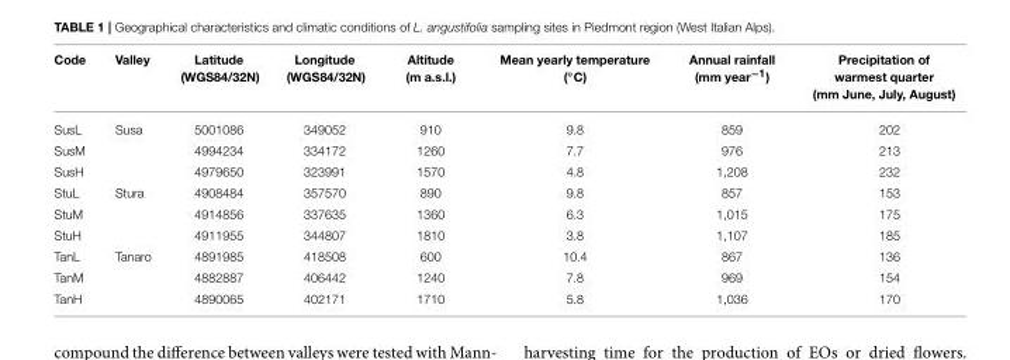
<table><thead><tr><td>Code</td><td>Valley</td><td>Latitude (WGS84/32N)</td><td>Longitude (WGS84/32N)</td><td>Altitude (m a.s.l.)</td><td>Mean yearly temperature (◦C)</td><td>Annual rainfall (mm year<sup>−1</sup>)</td><td>Precipitation of warmest quarter (mm June, July, August)</td></tr></thead><tbody><tr><td>SusL</td><td>Susa</td><td>5001086</td><td>349052</td><td>910</td><td>9.8</td><td>859</td><td>202</td></tr><tr><td>SusM</td><td></td><td>4994234</td><td>334172</td><td>1260</td><td>7.7</td><td>976</td><td>213</td></tr><tr><td>SusH</td><td></td><td>4979650</td><td>323991</td><td>1570</td><td>4.8</td><td>1,208</td><td>232</td></tr><tr><td>StuL</td><td>Stura</td><td>4908484</td><td>357570</td><td>890</td><td>9.8</td><td>857</td><td>153</td></tr><tr><td>StuM</td><td></td><td>4914856</td><td>337635</td><td>1360</td><td>6.3</td><td>1,015</td><td>175</td></tr><tr><td>StuH</td><td></td><td>4911955</td><td>344807</td><td>1810</td><td>3.8</td><td>1,107</td><td>185</td></tr><tr><td>TanL</td><td>Tanaro</td><td>4891985</td><td>418508</td><td>600</td><td>10.4</td><td>867</td><td>136</td></tr><tr><td>TanM</td><td></td><td>4882887</td><td>406442</td><td>1240</td><td>7.8</td><td>969</td><td>154</td></tr><tr><td>TanH</td><td></td><td>4890065</td><td>402171</td><td>1710</td><td>5.8</td><td>1,036</td><td>170</td></tr></tbody></table>